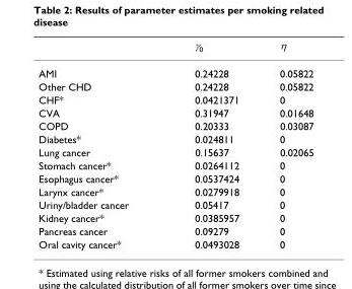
<table><thead><tr><td></td><td>γ<sub>0</sub></td><td>η</td></tr></thead><tbody><tr><td>AMI</td><td>0.24228</td><td>0.05822</td></tr><tr><td>Other CHD</td><td>0.24228</td><td>0.05822</td></tr><tr><td>CHF*</td><td>0.0421371</td><td>0</td></tr><tr><td>CVA</td><td>0.31947</td><td>0.01648</td></tr><tr><td>COPD</td><td>0.20333</td><td>0.03087</td></tr><tr><td>Diabetes*</td><td>0.024811</td><td>0</td></tr><tr><td>Lung cancer</td><td>0.15637</td><td>0.02065</td></tr><tr><td>Stomach cancer*</td><td>0.0264112</td><td>0</td></tr><tr><td>Esophagus cancer*</td><td>0.0537424</td><td>0</td></tr><tr><td>Larynx cancer*</td><td>0.0279918</td><td>0</td></tr><tr><td>Uriny/bladder cancer</td><td>0.05417</td><td>0</td></tr><tr><td>Kidney cancer*</td><td>0.0385957</td><td>0</td></tr><tr><td>Pancreas cancer</td><td>0.09279</td><td>0</td></tr><tr><td>Oral cavity cancer*</td><td>0.0493028</td><td>0</td></tr></tbody></table>